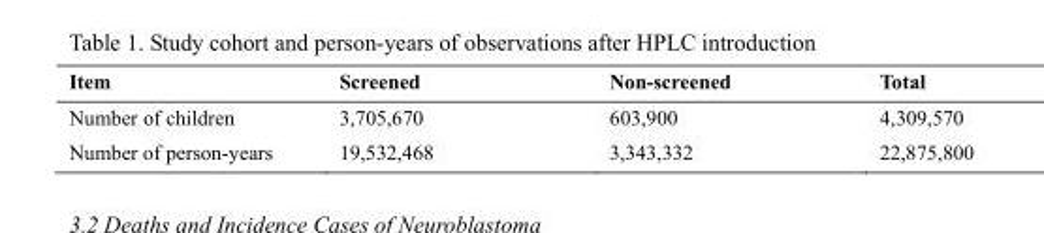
<table><thead><tr><td>Item</td><td>Screened</td><td>Non-screened</td><td>Total</td></tr></thead><tbody><tr><td>Number of children</td><td>3,705,670</td><td>603,900</td><td>4,309,570</td></tr><tr><td>Number of person-years</td><td>19,532,468</td><td>3,343,332</td><td>22,875,800</td></tr></tbody></table>